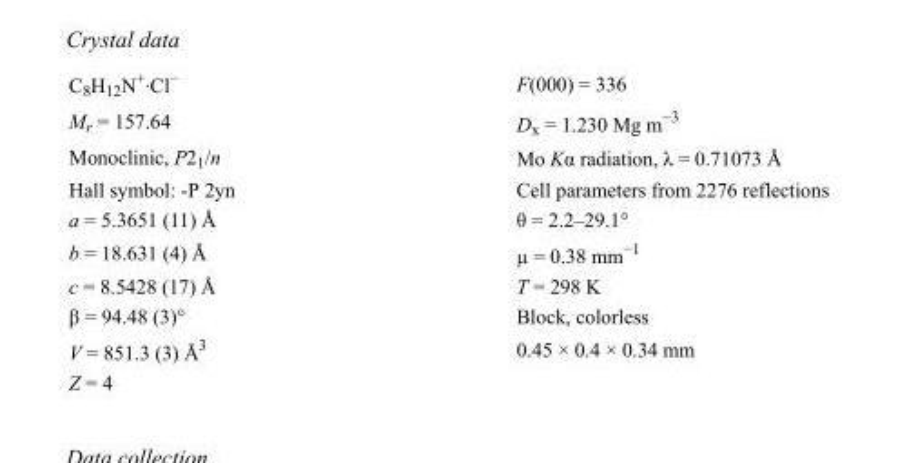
<table><tbody><tr><td>C<sub>8</sub>H<sub>12</sub>N<sup>+</sup>·Cl<sup>−</sup></td><td>F(000) = 336</td></tr><tr><td>M<sub>r</sub> = 157.64</td><td>D<sub>x</sub> = 1.230 Mg m<sup>−3</sup></td></tr><tr><td>Monoclinic, P2<sub>1</sub>/n</td><td>Mo Kα radiation, λ = 0.71073 Å</td></tr><tr><td>Hall symbol: -P 2yn</td><td>Cell parameters from 2276 reflections</td></tr><tr><td>a = 5.3651 (11) Å</td><td>θ = 2.2–29.1°</td></tr><tr><td>b = 18.631 (4) Å</td><td>µ = 0.38 mm<sup>−1</sup></td></tr><tr><td>c = 8.5428 (17) Å</td><td>T = 298 K</td></tr><tr><td>β = 94.48 (3)°</td><td>Block, colorless</td></tr><tr><td>V = 851.3 (3) Å<sup>3</sup></td><td>0.45 × 0.4 × 0.34 mm</td></tr><tr><td>Z = 4</td><td></td></tr></tbody></table>